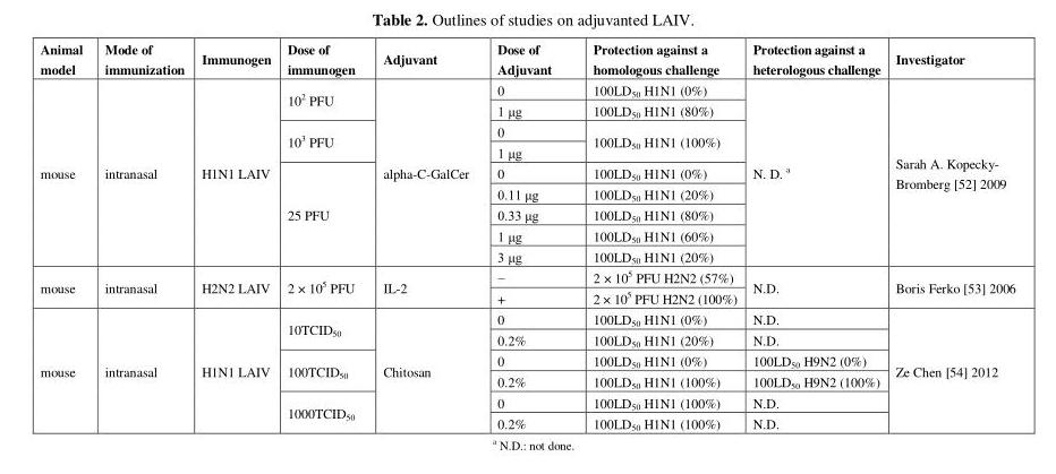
<table><thead><tr><td>Animal model</td><td>Mode of immunization</td><td>Immunogen</td><td>Dose of immunogen</td><td>Adjuvant</td><td>Dose of Adjuvant</td><td>Protection against a homologous challenge</td><td>Protection against a heterologous challenge</td><td>Investigator</td></tr></thead><tbody><tr><td rowspan="9">mouse</td><td rowspan="9">intranasal</td><td rowspan="9">H1N1 LAIV</td><td rowspan="2">10<sup>2</sup> PFU</td><td rowspan="9">alpha-C-GalCer</td><td>0</td><td>100LD<sub>50</sub> H1N1 (0%)</td><td rowspan="9">N. D. <sup>a</sup></td><td rowspan="9">Sarah A. Kopecky- Bromberg [52] 2009</td></tr><tr><td>1 μg</td><td>100LD<sub>50</sub> H1N1 (80%)</td></tr><tr><td rowspan="2">10<sup>3</sup> PFU</td><td>0</td><td rowspan="2">100LD<sub>50</sub> H1N1 (100%)</td></tr><tr><td>1 μg</td></tr><tr><td rowspan="5">25 PFU</td><td>0</td><td>100LD<sub>50</sub> H1N1 (0%)</td></tr><tr><td>0.11 μg</td><td>100LD<sub>50</sub> H1N1 (20%)</td></tr><tr><td>0.33 μg</td><td>100LD<sub>50</sub> H1N1 (80%)</td></tr><tr><td>1 μg</td><td>100LD<sub>50</sub> H1N1 (60%)</td></tr><tr><td>3 μg</td><td>100LD<sub>50</sub> H1N1 (20%)</td></tr><tr><td rowspan="2">mouse</td><td rowspan="2">intranasal</td><td rowspan="2">H2N2 LAIV</td><td rowspan="2">2 × 10<sup>5</sup> PFU</td><td rowspan="2">IL-2</td><td>−</td><td>2 × 10<sup>5</sup> PFU H2N2 (57%)</td><td rowspan="2">N.D.</td><td rowspan="2">Boris Ferko [53] 2006</td></tr><tr><td>+</td><td>2 × 10<sup>5</sup> PFU H2N2 (100%)</td></tr><tr><td rowspan="6">mouse</td><td rowspan="6">intranasal</td><td rowspan="6">H1N1 LAIV</td><td rowspan="2">10TCID<sub>50</sub></td><td rowspan="6">Chitosan</td><td>0</td><td>100LD<sub>50</sub> H1N1 (0%)</td><td>N.D.</td><td rowspan="6">Ze Chen [54] 2012</td></tr><tr><td>0.2%</td><td>100LD<sub>50</sub> H1N1 (20%)</td><td>N.D.</td></tr><tr><td rowspan="2">100TCID<sub>50</sub></td><td>0</td><td>100LD<sub>50</sub> H1N1 (0%)</td><td>100LD<sub>50</sub> H9N2 (0%)</td></tr><tr><td>0.2%</td><td>100LD<sub>50</sub> H1N1 (100%)</td><td>100LD<sub>50</sub> H9N2 (100%)</td></tr><tr><td rowspan="2">1000TCID<sub>50</sub></td><td>0</td><td>100LD<sub>50</sub> H1N1 (100%)</td><td>N.D.</td></tr><tr><td>0.2%</td><td>100LD<sub>50</sub> H1N1 (100%)</td><td>N.D.</td></tr></tbody></table>